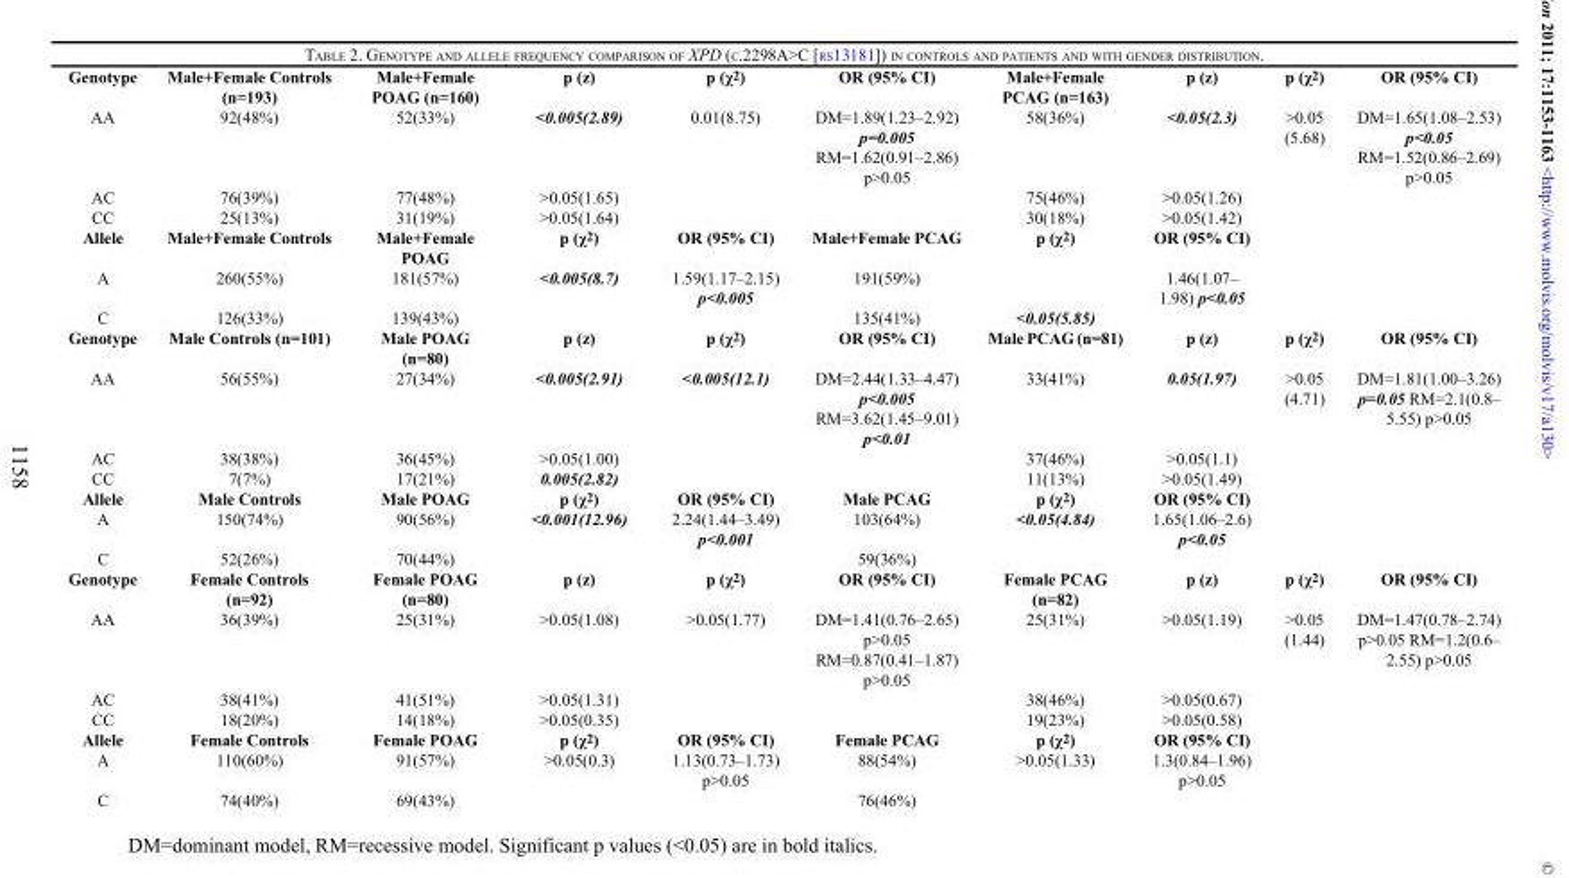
<table><thead><tr><td>Genotype</td><td>Male+Female Controls (n=193)</td><td>Male+Female POAG (n=160)</td><td>p (z)</td><td>p (χ<sup>2</sup>)</td><td>OR (95% CI)</td><td>Male+Female PCAG (n=163)</td><td>p (z)</td><td>p (χ<sup>2</sup>)</td><td>OR (95% CI)</td></tr></thead><tbody><tr><td>AA</td><td>92(48%)</td><td>52(33%)</td><td>&lt;0.005(2.89)</td><td>0.01(8.75)</td><td>DM=1.89(1.23–2.92) p=0.005 RM=1.62(0.91–2.86) p&gt;0.05</td><td>58(36%)</td><td>&lt;0.05(2.3)</td><td>&gt;0.05 (5.68)</td><td>DM=1.65(1.08–2.53) p&lt;0.05 RM=1.52(0.86–2.69) p&gt;0.05</td></tr><tr><td>AC</td><td>76(39%)</td><td>77(48%)</td><td>&gt;0.05(1.65)</td><td></td><td></td><td>75(46%)</td><td>&gt;0.05(1.26)</td><td></td><td></td></tr><tr><td>CC</td><td>25(13%)</td><td>31(19%)</td><td>&gt;0.05(1.64)</td><td></td><td></td><td>30(18%)</td><td>&gt;0.05(1.42)</td><td></td><td></td></tr><tr><td>Allele</td><td>Male+Female Controls</td><td>Male+Female POAG</td><td>p (χ<sup>2</sup>)</td><td>OR (95% CI)</td><td>Male+Female PCAG</td><td>p (χ<sup>2</sup>)</td><td>OR (95% CI)</td><td></td><td></td></tr><tr><td>A</td><td>260(55%)</td><td>181(57%)</td><td>&lt;0.005(8.7)</td><td>1.59(1.17–2.15) p&lt;0.005</td><td>191(59%)</td><td></td><td>1.46(1.07– 1.98) p&lt;0.05</td><td></td><td></td></tr><tr><td>C</td><td>126(33%)</td><td>139(43%)</td><td></td><td></td><td>135(41%)</td><td>&lt;0.05(5.85)</td><td></td><td></td><td></td></tr><tr><td>Genotype</td><td>Male Controls (n=101)</td><td>Male POAG (n=80)</td><td>p (z)</td><td>p (χ<sup>2</sup>)</td><td>OR (95% CI)</td><td>Male PCAG (n=81)</td><td>p (z)</td><td>p (χ<sup>2</sup>)</td><td>OR (95% CI)</td></tr><tr><td>AA</td><td>56(55%)</td><td>27(34%)</td><td>&lt;0.005(2.91)</td><td>&lt;0.005(12.1)</td><td>DM=2.44(1.33–4.47) p&lt;0.005 RM=3.62(1.45–9.01) p&lt;0.01</td><td>33(41%)</td><td>0.05(1.97)</td><td>&gt;0.05 (4.71)</td><td>DM=1.81(1.00–3.26) p=0.05 RM=2.1(0.8– 5.55) p&gt;0.05</td></tr><tr><td>AC</td><td>38(38%)</td><td>36(45%)</td><td>&gt;0.05(1.00)</td><td></td><td></td><td>37(46%)</td><td>&gt;0.05(1.1)</td><td></td><td></td></tr><tr><td>CC</td><td>7(7%)</td><td>17(21%)</td><td>0.005(2.82)</td><td></td><td></td><td>11(13%)</td><td>&gt;0.05(1.49)</td><td></td><td></td></tr><tr><td>Allele</td><td>Male Controls</td><td>Male POAG</td><td>p (χ<sup>2</sup>)</td><td>OR (95% CI)</td><td>Male PCAG</td><td>p (χ<sup>2</sup>)</td><td>OR (95% CI)</td><td></td><td></td></tr><tr><td>A</td><td>150(74%)</td><td>90(56%)</td><td>&lt;0.001(12.96)</td><td>2.24(1.44–3.49) p&lt;0.001</td><td>103(64%)</td><td>&lt;0.05(4.84)</td><td>1.65(1.06–2.6) p&lt;0.05</td><td></td><td></td></tr><tr><td>C</td><td>52(26%)</td><td>70(44%)</td><td></td><td></td><td>59(36%)</td><td></td><td></td><td></td><td></td></tr><tr><td>Genotype</td><td>Female Controls (n=92)</td><td>Female POAG (n=80)</td><td>p (z)</td><td>p (χ<sup>2</sup>)</td><td>OR (95% CI)</td><td>Female PCAG (n=82)</td><td>p (z)</td><td>p (χ<sup>2</sup>)</td><td>OR (95% CI)</td></tr><tr><td>AA</td><td>36(39%)</td><td>25(31%)</td><td>&gt;0.05(1.08)</td><td>&gt;0.05(1.77)</td><td>DM=1.41(0.76–2.65) p&gt;0.05 RM=0.87(0.41–1.87) p&gt;0.05</td><td>25(31%)</td><td>&gt;0.05(1.19)</td><td>&gt;0.05 (1.44)</td><td>DM=1.47(0.78–2.74) p&gt;0.05 RM=1.2(0.6– 2.55) p&gt;0.05</td></tr><tr><td>AC</td><td>38(41%)</td><td>41(51%)</td><td>&gt;0.05(1.31)</td><td></td><td></td><td>38(46%)</td><td>&gt;0.05(0.67)</td><td></td><td></td></tr><tr><td>CC</td><td>18(20%)</td><td>14(18%)</td><td>&gt;0.05(0.35)</td><td></td><td></td><td>19(23%)</td><td>&gt;0.05(0.58)</td><td></td><td></td></tr><tr><td>Allele</td><td>Female Controls</td><td>Female POAG</td><td>p (χ<sup>2</sup>)</td><td>OR (95% CI)</td><td>Female PCAG</td><td>p (χ<sup>2</sup>)</td><td>OR (95% CI)</td><td></td><td></td></tr><tr><td>A</td><td>110(60%)</td><td>91(57%)</td><td>&gt;0.05(0.3)</td><td>1.13(0.73–1.73) p&gt;0.05</td><td>88(54%)</td><td>&gt;0.05(1.33)</td><td>1.3(0.84–1.96) p&gt;0.05</td><td></td><td></td></tr><tr><td>C</td><td>74(40%)</td><td>69(43%)</td><td></td><td></td><td>76(46%)</td><td></td><td></td><td></td><td></td></tr></tbody></table>